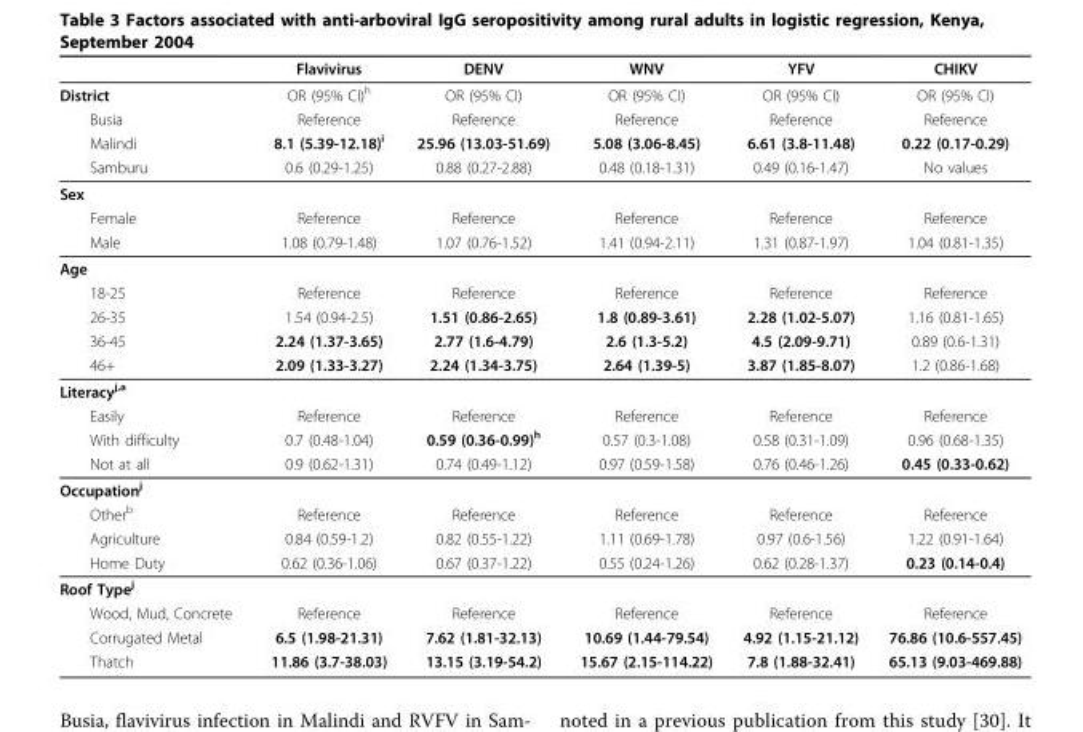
<table><thead><tr><td></td><td>Flavivirus</td><td>DENV</td><td>WNV</td><td>YFV</td><td>CHIKV</td></tr></thead><tbody><tr><td>District</td><td>OR (95% CI)<sup>h</sup></td><td>OR (95% CI)</td><td>OR (95% CI)</td><td>OR (95% CI)</td><td>OR (95% CI)</td></tr><tr><td>Busia</td><td>Reference</td><td>Reference</td><td>Reference</td><td>Reference</td><td>Reference</td></tr><tr><td>Malindi</td><td>8.1 (5.39-12.18)<sup>i</sup></td><td>25.96 (13.03-51.69)</td><td>5.08 (3.06-8.45)</td><td>6.61 (3.8-11.48)</td><td>0.22 (0.17-0.29)</td></tr><tr><td>Samburu</td><td>0.6 (0.29-1.25)</td><td>0.88 (0.27-2.88)</td><td>0.48 (0.18-1.31)</td><td>0.49 (0.16-1.47)</td><td>No values</td></tr><tr><td colspan="6">Sex</td></tr><tr><td>Female</td><td>Reference</td><td>Reference</td><td>Reference</td><td>Reference</td><td>Reference</td></tr><tr><td>Male</td><td>1.08 (0.79-1.48)</td><td>1.07 (0.76-1.52)</td><td>1.41 (0.94-2.11)</td><td>1.31 (0.87-1.97)</td><td>1.04 (0.81-1.35)</td></tr><tr><td colspan="6">Age</td></tr><tr><td>18-25</td><td>Reference</td><td>Reference</td><td>Reference</td><td>Reference</td><td>Reference</td></tr><tr><td>26-35</td><td>1.54 (0.94-2.5)</td><td>1.51 (0.86-2.65)</td><td>1.8 (0.89-3.61)</td><td>2.28 (1.02-5.07)</td><td>1.16 (0.81-1.65)</td></tr><tr><td>36-45</td><td>2.24 (1.37-3.65)</td><td>2.77 (1.6-4.79)</td><td>2.6 (1.3-5.2)</td><td>4.5 (2.09-9.71)</td><td>0.89 (0.6-1.31)</td></tr><tr><td>46+</td><td>2.09 (1.33-3.27)</td><td>2.24 (1.34-3.75)</td><td>2.64 (1.39-5)</td><td>3.87 (1.85-8.07)</td><td>1.2 (0.86-1.68)</td></tr><tr><td colspan="6">Literacy<sup>j,a</sup></td></tr><tr><td>Easily</td><td>Reference</td><td>Reference</td><td>Reference</td><td>Reference</td><td>Reference</td></tr><tr><td>With difficulty</td><td>0.7 (0.48-1.04)</td><td>0.59 (0.36-0.99)<sup>h</sup></td><td>0.57 (0.3-1.08)</td><td>0.58 (0.31-1.09)</td><td>0.96 (0.68-1.35)</td></tr><tr><td>Not at all</td><td>0.9 (0.62-1.31)</td><td>0.74 (0.49-1.12)</td><td>0.97 (0.59-1.58)</td><td>0.76 (0.46-1.26)</td><td>0.45 (0.33-0.62)</td></tr><tr><td colspan="6">Occupation<sup>j</sup></td></tr><tr><td>Other<sup>b</sup></td><td>Reference</td><td>Reference</td><td>Reference</td><td>Reference</td><td>Reference</td></tr><tr><td>Agriculture</td><td>0.84 (0.59-1.2)</td><td>0.82 (0.55-1.22)</td><td>1.11 (0.69-1.78)</td><td>0.97 (0.6-1.56)</td><td>1.22 (0.91-1.64)</td></tr><tr><td>Home Duty</td><td>0.62 (0.36-1.06)</td><td>0.67 (0.37-1.22)</td><td>0.55 (0.24-1.26)</td><td>0.62 (0.28-1.37)</td><td>0.23 (0.14-0.4)</td></tr><tr><td colspan="6">Roof Type<sup>j</sup></td></tr><tr><td>Wood, Mud, Concrete</td><td>Reference</td><td>Reference</td><td>Reference</td><td>Reference</td><td>Reference</td></tr><tr><td>Corrugated Metal</td><td>6.5 (1.98-21.31)</td><td>7.62 (1.81-32.13)</td><td>10.69 (1.44-79.54)</td><td>4.92 (1.15-21.12)</td><td>76.86 (10.6-557.45)</td></tr><tr><td>Thatch</td><td>11.86 (3.7-38.03)</td><td>13.15 (3.19-54.2)</td><td>15.67 (2.15-114.22)</td><td>7.8 (1.88-32.41)</td><td>65.13 (9.03-469.88)</td></tr></tbody></table>